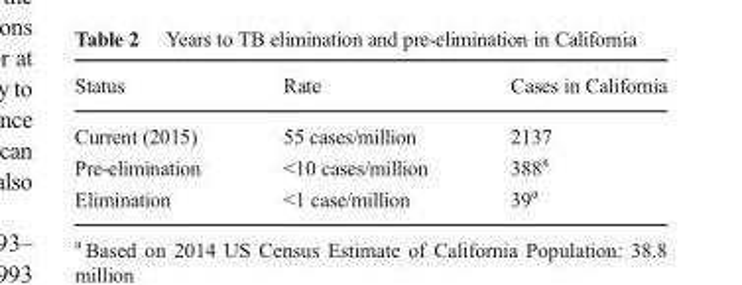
<table><thead><tr><td>Status</td><td>Rate</td><td>Cases in California</td></tr></thead><tbody><tr><td>Current (2015)</td><td>55 cases/million</td><td>2137</td></tr><tr><td>Pre-elimination</td><td>&lt;10 cases/million</td><td>388<sup>a</sup></td></tr><tr><td>Elimination</td><td>&lt;1 case/million</td><td>39<sup>a</sup></td></tr></tbody></table>